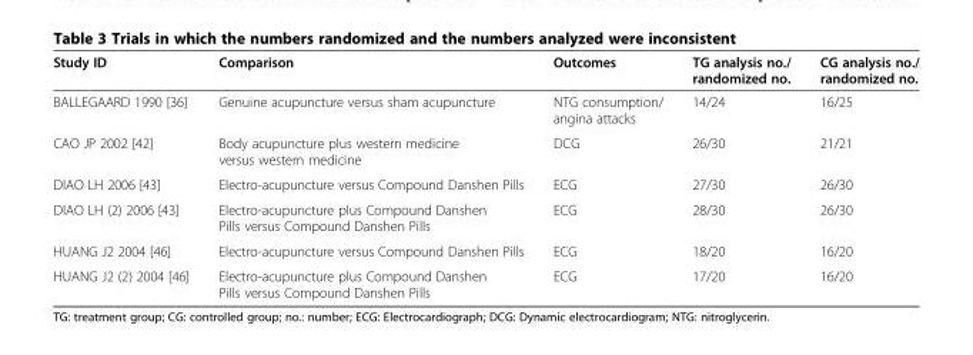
<table><thead><tr><td>Study ID</td><td>Comparison</td><td>Outcomes</td><td>TG analysis no./ randomized no.</td><td>CG analysis no./ randomized no.</td></tr></thead><tbody><tr><td>BALLEGAARD 1990 [36]</td><td>Genuine acupuncture versus sham acupuncture</td><td>NTG consumption/ angina attacks</td><td>14/24</td><td>16/25</td></tr><tr><td>CAO JP 2002 [42]</td><td>Body acupuncture plus western medicine versus western medicine</td><td>DCG</td><td>26/30</td><td>21/21</td></tr><tr><td>DIAO LH 2006 [43]</td><td>Electro-acupuncture versus Compound Danshen Pills</td><td>ECG</td><td>27/30</td><td>26/30</td></tr><tr><td>DIAO LH (2) 2006 [43]</td><td>Electro-acupuncture plus Compound Danshen Pills versus Compound Danshen Pills</td><td>ECG</td><td>28/30</td><td>26/30</td></tr><tr><td>HUANG J2 2004 [46]</td><td>Electro-acupuncture versus Compound Danshen Pills</td><td>ECG</td><td>18/20</td><td>16/20</td></tr><tr><td>HUANG J2 (2) 2004 [46]</td><td>Electro-acupuncture plus Compound Danshen Pills versus Compound Danshen Pills</td><td>ECG</td><td>17/20</td><td>16/20</td></tr></tbody></table>